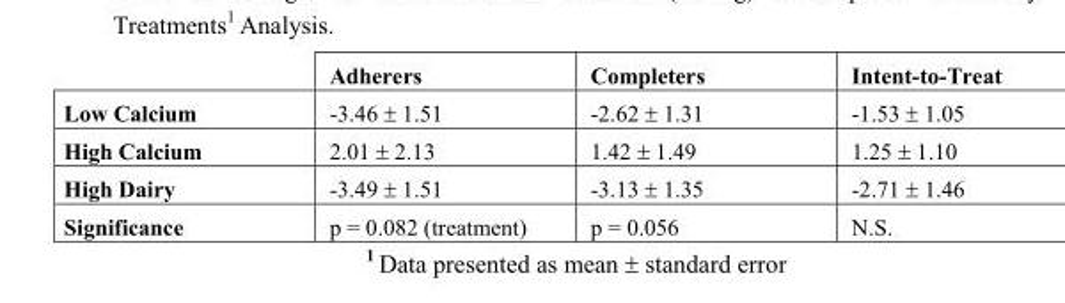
<table><thead><tr><td></td><td>Adherers</td><td>Completers</td><td>Intent-to-Treat</td></tr></thead><tbody><tr><td>Low Calcium</td><td>-3.46 ± 1.51</td><td>-2.62 ± 1.31</td><td>-1.53 ± 1.05</td></tr><tr><td>High Calcium</td><td>2.01 ± 2.13</td><td>1.42 ± 1.49</td><td>1.25 ± 1.10</td></tr><tr><td>High Dairy</td><td>-3.49 ± 1.51</td><td>-3.13 ± 1.35</td><td>-2.71 ± 1.46</td></tr><tr><td>Significance</td><td>p = 0.082 (treatment)</td><td>p = 0.056</td><td>N.S.</td></tr></tbody></table>